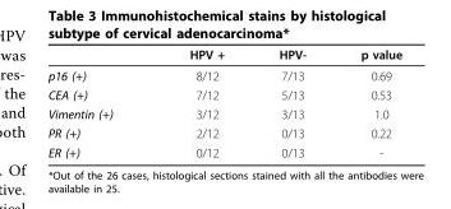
<table><thead><tr><td></td><td>HPV +</td><td>HPV-</td><td>p value</td></tr></thead><tbody><tr><td>p16 (+)</td><td>8/12</td><td>7/13</td><td>0.69</td></tr><tr><td>CEA (+)</td><td>7/12</td><td>5/13</td><td>0.53</td></tr><tr><td>Vimentin (+)</td><td>3/12</td><td>3/13</td><td>1.0</td></tr><tr><td>PR (+)</td><td>2/12</td><td>0/13</td><td>0.22</td></tr><tr><td>ER (+)</td><td>0/12</td><td>0/13</td><td>-</td></tr></tbody></table>